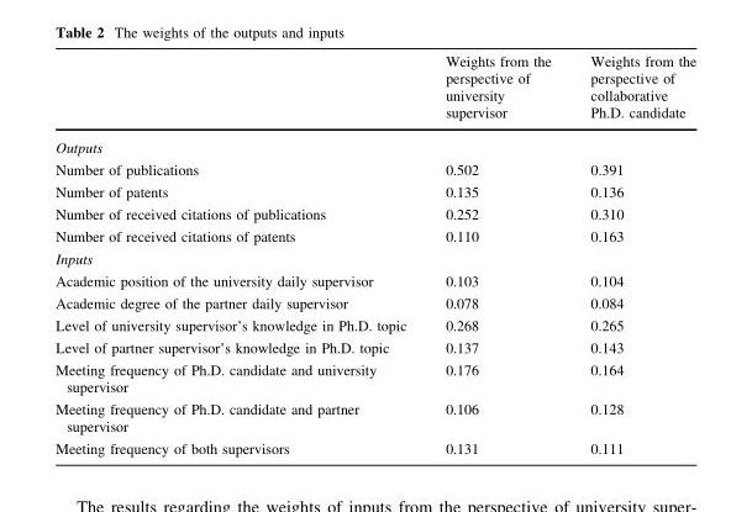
<table><thead><tr><td></td><td>Weights from the perspective of university supervisor</td><td>Weights from the perspective of collaborative Ph.D. candidate</td></tr></thead><tbody><tr><td colspan="3">Outputs</td></tr><tr><td>Number of publications</td><td>0.502</td><td>0.391</td></tr><tr><td>Number of patents</td><td>0.135</td><td>0.136</td></tr><tr><td>Number of received citations of publications</td><td>0.252</td><td>0.310</td></tr><tr><td>Number of received citations of patents</td><td>0.110</td><td>0.163</td></tr><tr><td colspan="3">Inputs</td></tr><tr><td>Academic position of the university daily supervisor</td><td>0.103</td><td>0.104</td></tr><tr><td>Academic degree of the partner daily supervisor</td><td>0.078</td><td>0.084</td></tr><tr><td>Level of university supervisor’s knowledge in Ph.D. topic</td><td>0.268</td><td>0.265</td></tr><tr><td>Level of partner supervisor’s knowledge in Ph.D. topic</td><td>0.137</td><td>0.143</td></tr><tr><td>Meeting frequency of Ph.D. candidate and university supervisor</td><td>0.176</td><td>0.164</td></tr><tr><td>Meeting frequency of Ph.D. candidate and partner supervisor</td><td>0.106</td><td>0.128</td></tr><tr><td>Meeting frequency of both supervisors</td><td>0.131</td><td>0.111</td></tr></tbody></table>